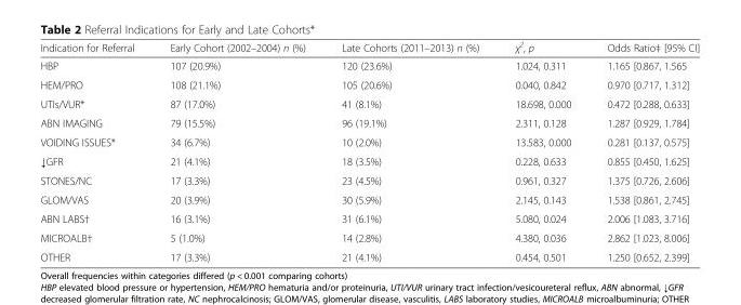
<table><thead><tr><td>Indication for Referral</td><td>Early Cohort (2002–2004) n (%)</td><td>Late Cohorts (2011–2013) n (%)</td><td>χ<sup>2</sup>, p</td><td>Odds Ratio‡ [95% CI]</td></tr></thead><tbody><tr><td>HBP</td><td>107 (20.9%)</td><td>120 (23.6%)</td><td>1.024, 0.311</td><td>1.165 [0.867, 1.565</td></tr><tr><td>HEM/PRO</td><td>108 (21.1%)</td><td>105 (20.6%)</td><td>0.040, 0.842</td><td>0.970 [0.717, 1.312]</td></tr><tr><td>UTIs/VUR*</td><td>87 (17.0%)</td><td>41 (8.1%)</td><td>18.698, 0.000</td><td>0.472 [0.288, 0.633]</td></tr><tr><td>ABN IMAGING</td><td>79 (15.5%)</td><td>96 (19.1%)</td><td>2.311, 0.128</td><td>1.287 [0.929, 1.784]</td></tr><tr><td>VOIDING ISSUES*</td><td>34 (6.7%)</td><td>10 (2.0%)</td><td>13.583, 0.000</td><td>0.281 [0.137, 0.575]</td></tr><tr><td>↓GFR</td><td>21 (4.1%)</td><td>18 (3.5%)</td><td>0.228, 0.633</td><td>0.855 [0.450, 1.625]</td></tr><tr><td>STONES/NC</td><td>17 (3.3%)</td><td>23 (4.5%)</td><td>0.961, 0.327</td><td>1.375 [0.726, 2.606]</td></tr><tr><td>GLOM/VAS</td><td>20 (3.9%)</td><td>30 (5.9%)</td><td>2.145, 0.143</td><td>1.538 [0.861, 2.745]</td></tr><tr><td>ABN LABS†</td><td>16 (3.1%)</td><td>31 (6.1%)</td><td>5.080, 0.024</td><td>2.006 [1.083, 3.716]</td></tr><tr><td>MICROALB†</td><td>5 (1.0%)</td><td>14 (2.8%)</td><td>4.380, 0.036</td><td>2.862 [1.023, 8.006]</td></tr><tr><td>OTHER</td><td>17 (3.3%)</td><td>21 (4.1%)</td><td>0.454, 0.501</td><td>1.250 [0.652, 2.399]</td></tr></tbody></table>